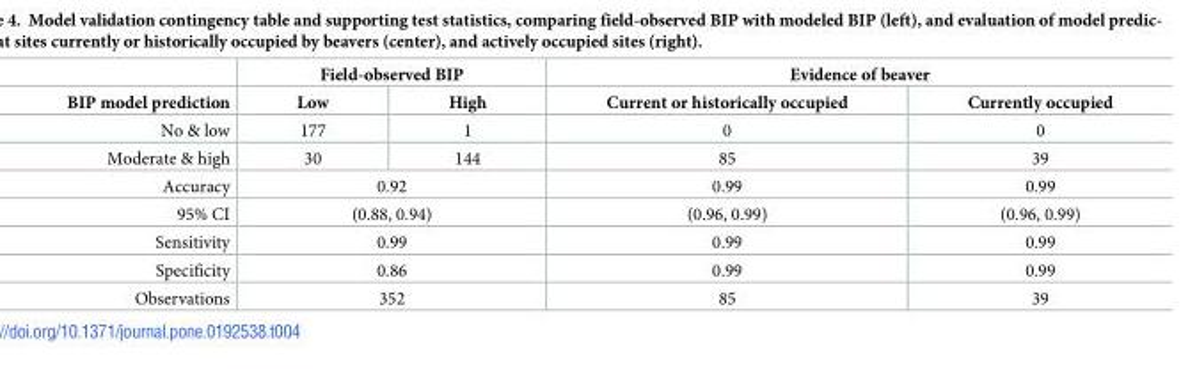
<table><thead><tr><td rowspan="2">BIP model prediction</td><td colspan="2">Field-observed BIP</td><td colspan="2">Evidence of beaver</td></tr><tr><td>Low</td><td>High</td><td>Current or historically occupied</td><td>Currently occupied</td></tr></thead><tbody><tr><td>No &amp; low</td><td>177</td><td>1</td><td>0</td><td>0</td></tr><tr><td>Moderate &amp; high</td><td>30</td><td>144</td><td>85</td><td>39</td></tr><tr><td>Accuracy</td><td colspan="2">0.92</td><td>0.99</td><td>0.99</td></tr><tr><td>95% CI</td><td colspan="2">(0.88, 0.94)</td><td>(0.96, 0.99)</td><td>(0.96, 0.99)</td></tr><tr><td>Sensitivity</td><td colspan="2">0.99</td><td>0.99</td><td>0.99</td></tr><tr><td>Specificity</td><td colspan="2">0.86</td><td>0.99</td><td>0.99</td></tr><tr><td>Observations</td><td colspan="2">352</td><td>85</td><td>39</td></tr></tbody></table>